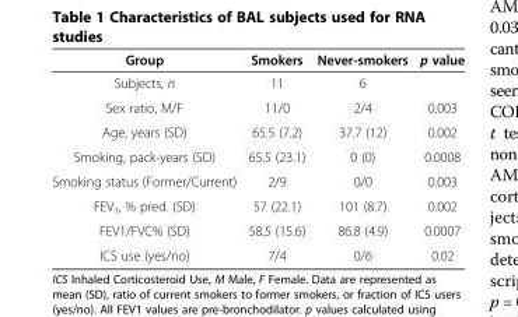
<table><thead><tr><td>Group</td><td>Smokers</td><td>Never-smokers</td><td>p value</td></tr></thead><tbody><tr><td>Subjects, n</td><td>11</td><td>6</td><td></td></tr><tr><td>Sex ratio, M/F</td><td>11/0</td><td>2/4</td><td>0.003</td></tr><tr><td>Age, years (SD)</td><td>65.5 (7.2)</td><td>37.7 (12)</td><td>0.002</td></tr><tr><td>Smoking, pack-years (SD)</td><td>65.5 (23.1)</td><td>0 (0)</td><td>0.0008</td></tr><tr><td>Smoking status (Former/Current)</td><td>2/9</td><td>0/0</td><td>0.003</td></tr><tr><td>FEV<sub>1</sub>, % pred. (SD)</td><td>57 (22.1)</td><td>101 (8.7)</td><td>0.002</td></tr><tr><td>FEV1/FVC% (SD)</td><td>58.5 (15.6)</td><td>86.8 (4.9)</td><td>0.0007</td></tr><tr><td>ICS use (yes/no)</td><td>7/4</td><td>0/6</td><td>0.02</td></tr></tbody></table>